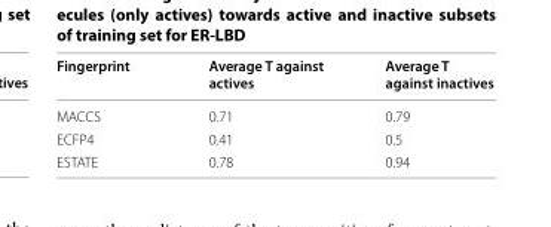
<table><thead><tr><td>Fingerprint</td><td>Average T against actives</td><td>Average T against inactives</td></tr></thead><tbody><tr><td>MACCS</td><td>0.71</td><td>0.79</td></tr><tr><td>ECFP4</td><td>0.41</td><td>0.5</td></tr><tr><td>ESTATE</td><td>0.78</td><td>0.94</td></tr></tbody></table>